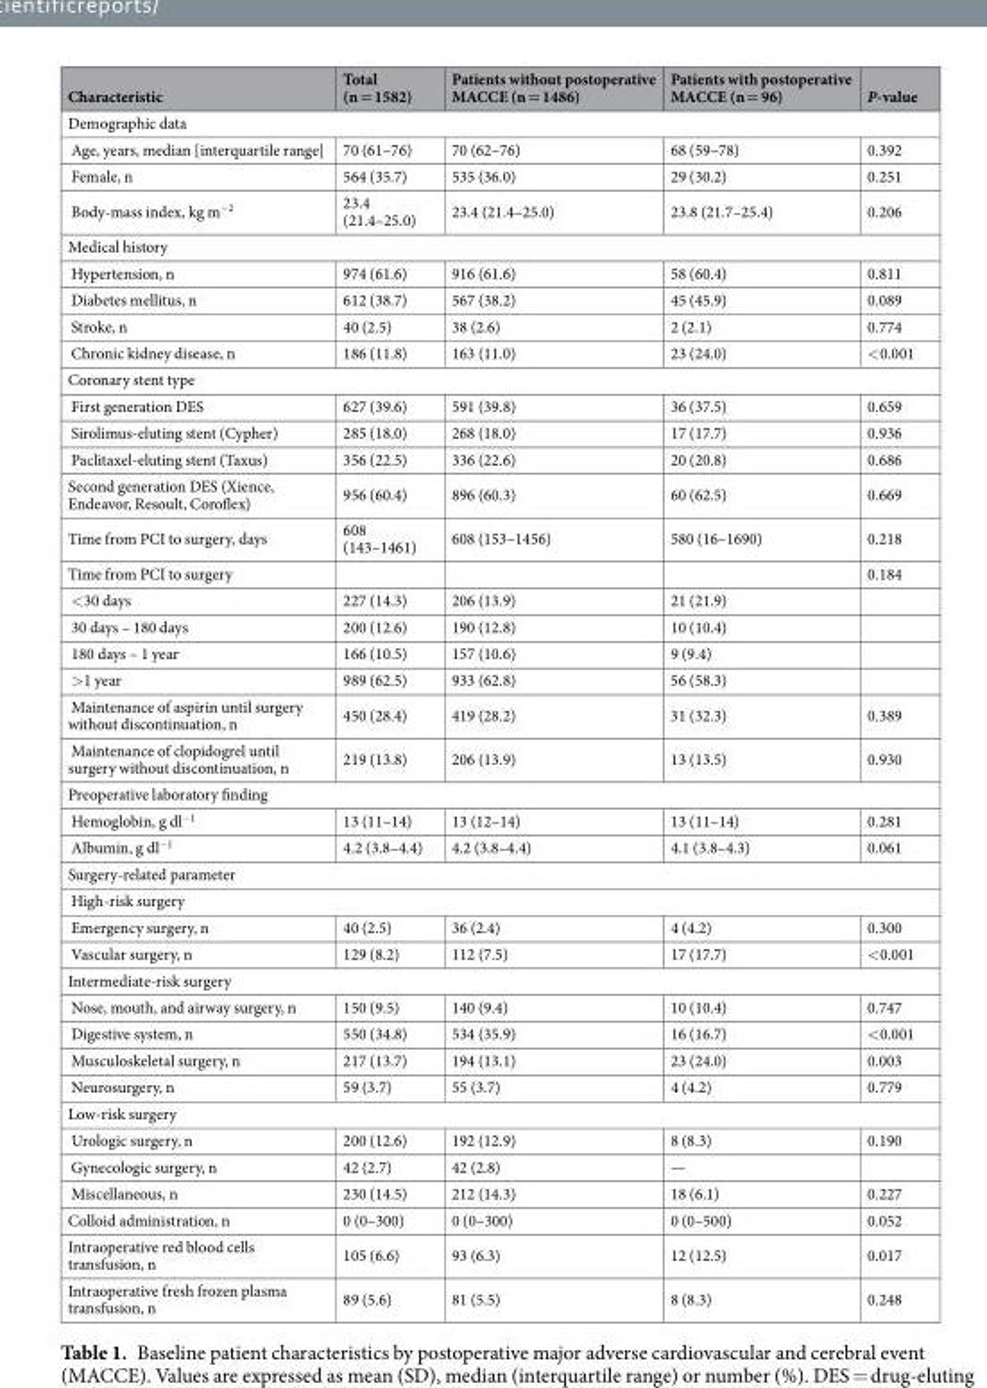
<table><thead><tr><td>Characteristic</td><td>Total (n = 1582)</td><td>Patients without postoperative MACCE (n = 1486)</td><td>Patients with postoperative MACCE (n = 96)</td><td>P-value</td></tr></thead><tbody><tr><td colspan="5">Demographic data</td></tr><tr><td>Age, years, median [interquartile range]</td><td>70 (61–76)</td><td>70 (62–76)</td><td>68 (59–78)</td><td>0.392</td></tr><tr><td>Female, n</td><td>564 (35.7)</td><td>535 (36.0)</td><td>29 (30.2)</td><td>0.251</td></tr><tr><td>Body-mass index, kg m<sup>−2</sup></td><td>23.4 (21.4–25.0)</td><td>23.4 (21.4–25.0)</td><td>23.8 (21.7–25.4)</td><td>0.206</td></tr><tr><td colspan="5">Medical history</td></tr><tr><td>Hypertension, n</td><td>974 (61.6)</td><td>916 (61.6)</td><td>58 (60.4)</td><td>0.811</td></tr><tr><td>Diabetes mellitus, n</td><td>612 (38.7)</td><td>567 (38.2)</td><td>45 (45.9)</td><td>0.089</td></tr><tr><td>Stroke, n</td><td>40 (2.5)</td><td>38 (2.6)</td><td>2 (2.1)</td><td>0.774</td></tr><tr><td>Chronic kidney disease, n</td><td>186 (11.8)</td><td>163 (11.0)</td><td>23 (24.0)</td><td>&lt;0.001</td></tr><tr><td colspan="5">Coronary stent type</td></tr><tr><td>First generation DES</td><td>627 (39.6)</td><td>591 (39.8)</td><td>36 (37.5)</td><td>0.659</td></tr><tr><td>Sirolimus-eluting stent (Cypher)</td><td>285 (18.0)</td><td>268 (18.0)</td><td>17 (17.7)</td><td>0.936</td></tr><tr><td>Paclitaxel-eluting stent (Taxus)</td><td>356 (22.5)</td><td>336 (22.6)</td><td>20 (20.8)</td><td>0.686</td></tr><tr><td>Second generation DES (Xience, Endeavor, Resoult, Coroflex)</td><td>956 (60.4)</td><td>896 (60.3)</td><td>60 (62.5)</td><td>0.669</td></tr><tr><td>Time from PCI to surgery, days</td><td>608 (143–1461)</td><td>608 (153–1456)</td><td>580 (16–1690)</td><td>0.218</td></tr><tr><td>Time from PCI to surgery</td><td></td><td></td><td></td><td>0.184</td></tr><tr><td>&lt;30 days</td><td>227 (14.3)</td><td>206 (13.9)</td><td>21 (21.9)</td><td></td></tr><tr><td>30 days – 180 days</td><td>200 (12.6)</td><td>190 (12.8)</td><td>10 (10.4)</td><td></td></tr><tr><td>180 days – 1 year</td><td>166 (10.5)</td><td>157 (10.6)</td><td>9 (9.4)</td><td></td></tr><tr><td>&gt;1 year</td><td>989 (62.5)</td><td>933 (62.8)</td><td>56 (58.3)</td><td></td></tr><tr><td>Maintenance of aspirin until surgery without discontinuation, n</td><td>450 (28.4)</td><td>419 (28.2)</td><td>31 (32.3)</td><td>0.389</td></tr><tr><td>Maintenance of clopidogrel until surgery without discontinuation, n</td><td>219 (13.8)</td><td>206 (13.9)</td><td>13 (13.5)</td><td>0.930</td></tr><tr><td colspan="5">Preoperative laboratory finding</td></tr><tr><td>Hemoglobin, g dl<sup>−1</sup></td><td>13 (11–14)</td><td>13 (12–14)</td><td>13 (11–14)</td><td>0.281</td></tr><tr><td>Albumin, g dl<sup>−1</sup></td><td>4.2 (3.8–4.4)</td><td>4.2 (3.8–4.4)</td><td>4.1 (3.8–4.3)</td><td>0.061</td></tr><tr><td colspan="5">Surgery-related parameter</td></tr><tr><td colspan="5">High-risk surgery</td></tr><tr><td>Emergency surgery, n</td><td>40 (2.5)</td><td>36 (2.4)</td><td>4 (4.2)</td><td>0.300</td></tr><tr><td>Vascular surgery, n</td><td>129 (8.2)</td><td>112 (7.5)</td><td>17 (17.7)</td><td>&lt;0.001</td></tr><tr><td colspan="5">Intermediate-risk surgery</td></tr><tr><td>Nose, mouth, and airway surgery, n</td><td>150 (9.5)</td><td>140 (9.4)</td><td>10 (10.4)</td><td>0.747</td></tr><tr><td>Digestive system, n</td><td>550 (34.8)</td><td>534 (35.9)</td><td>16 (16.7)</td><td>&lt;0.001</td></tr><tr><td>Musculoskeletal surgery, n</td><td>217 (13.7)</td><td>194 (13.1)</td><td>23 (24.0)</td><td>0.003</td></tr><tr><td>Neurosurgery, n</td><td>59 (3.7)</td><td>55 (3.7)</td><td>4 (4.2)</td><td>0.779</td></tr><tr><td colspan="5">Low-risk surgery</td></tr><tr><td>Urologic surgery, n</td><td>200 (12.6)</td><td>192 (12.9)</td><td>8 (8.3)</td><td>0.190</td></tr><tr><td>Gynecologic surgery, n</td><td>42 (2.7)</td><td>42 (2.8)</td><td>—</td><td></td></tr><tr><td>Miscellaneous, n</td><td>230 (14.5)</td><td>212 (14.3)</td><td>18 (6.1)</td><td>0.227</td></tr><tr><td>Colloid administration, n</td><td>0 (0–300)</td><td>0 (0–300)</td><td>0 (0–500)</td><td>0.052</td></tr><tr><td>Intraoperative red blood cells transfusion, n</td><td>105 (6.6)</td><td>93 (6.3)</td><td>12 (12.5)</td><td>0.017</td></tr><tr><td>Intraoperative fresh frozen plasma transfusion, n</td><td>89 (5.6)</td><td>81 (5.5)</td><td>8 (8.3)</td><td>0.248</td></tr></tbody></table>